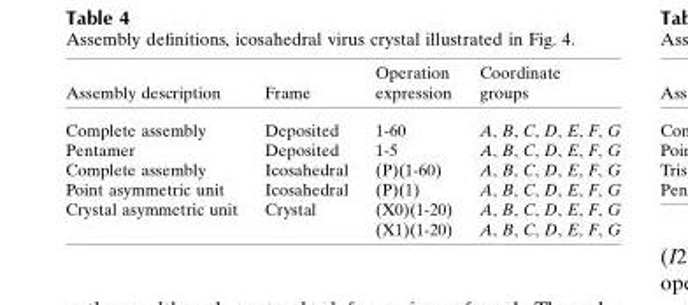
<table><thead><tr><td>Assembly description</td><td>Frame</td><td>Operation expression</td><td>Coordinate groups</td></tr></thead><tbody><tr><td>Complete assembly</td><td>Deposited</td><td>1-60</td><td>A, B, C, D, E, F, G</td></tr><tr><td>Pentamer</td><td>Deposited</td><td>1-5</td><td>A, B, C, D, E, F, G</td></tr><tr><td>Complete assembly</td><td>Icosahedral</td><td>(P)(1-60)</td><td>A, B, C, D, E, F, G</td></tr><tr><td>Point asymmetric unit</td><td>Icosahedral</td><td>(P)(1)</td><td>A, B, C, D, E, F, G</td></tr><tr><td rowspan="2">Crystal asymmetric unit</td><td>Crystal</td><td>(X0)(1-20)</td><td>A, B, C, D, E, F, G</td></tr><tr><td></td><td>(X1)(1-20)</td><td>A, B, C, D, E, F, G</td></tr></tbody></table>